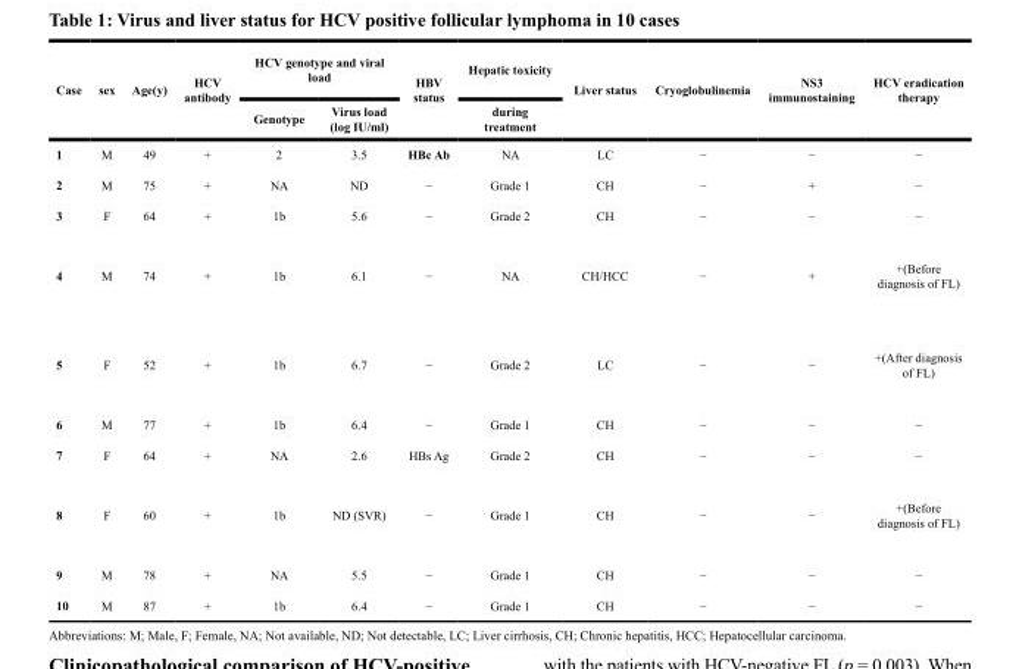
<table><thead><tr><td rowspan="2">Case</td><td rowspan="2">sex</td><td rowspan="2">Age(y)</td><td rowspan="2">HCV antibody</td><td colspan="2">HCV genotype and viral load</td><td rowspan="2">HBV status</td><td rowspan="2">Hepatic toxicity during treatment</td><td rowspan="2">Liver status</td><td rowspan="2">Cryoglobulinemia</td><td rowspan="2">NS3 immunostaining</td><td rowspan="2">HCV eradication therapy</td></tr><tr><td>Genotype</td><td>Virus load (log IU/ml)</td></tr></thead><tbody><tr><td>1</td><td>M</td><td>49</td><td>+</td><td>2</td><td>3.5</td><td>HBc Ab</td><td>NA</td><td>LC</td><td>−</td><td>−</td><td>−</td></tr><tr><td>2</td><td>M</td><td>75</td><td>+</td><td>NA</td><td>ND</td><td>−</td><td>Grade 1</td><td>CH</td><td>−</td><td>+</td><td>−</td></tr><tr><td>3</td><td>F</td><td>64</td><td>+</td><td>1b</td><td>5.6</td><td>−</td><td>Grade 2</td><td>CH</td><td>−</td><td>−</td><td>−</td></tr><tr><td>4</td><td>M</td><td>74</td><td>+</td><td>1b</td><td>6.1</td><td>−</td><td>NA</td><td>CH/HCC</td><td>−</td><td>+</td><td>+(Before diagnosis of FL)</td></tr><tr><td>5</td><td>F</td><td>52</td><td>+</td><td>1b</td><td>6.7</td><td>−</td><td>Grade 2</td><td>LC</td><td>−</td><td>−</td><td>+(After diagnosis of FL)</td></tr><tr><td>6</td><td>M</td><td>77</td><td>+</td><td>1b</td><td>6.4</td><td>−</td><td>Grade 1</td><td>CH</td><td>−</td><td>−</td><td>−</td></tr><tr><td>7</td><td>F</td><td>64</td><td>+</td><td>NA</td><td>2.6</td><td>HBs Ag</td><td>Grade 2</td><td>CH</td><td>−</td><td>−</td><td>−</td></tr><tr><td>8</td><td>F</td><td>60</td><td>+</td><td>1b</td><td>ND (SVR)</td><td>−</td><td>Grade 1</td><td>CH</td><td>−</td><td>−</td><td>+(Before diagnosis of FL)</td></tr><tr><td>9</td><td>M</td><td>78</td><td>+</td><td>NA</td><td>5.5</td><td>−</td><td>Grade 1</td><td>CH</td><td>−</td><td>−</td><td>−</td></tr><tr><td>10</td><td>M</td><td>87</td><td>+</td><td>1b</td><td>6.4</td><td>−</td><td>Grade 1</td><td>CH</td><td>−</td><td>−</td><td>−</td></tr></tbody></table>